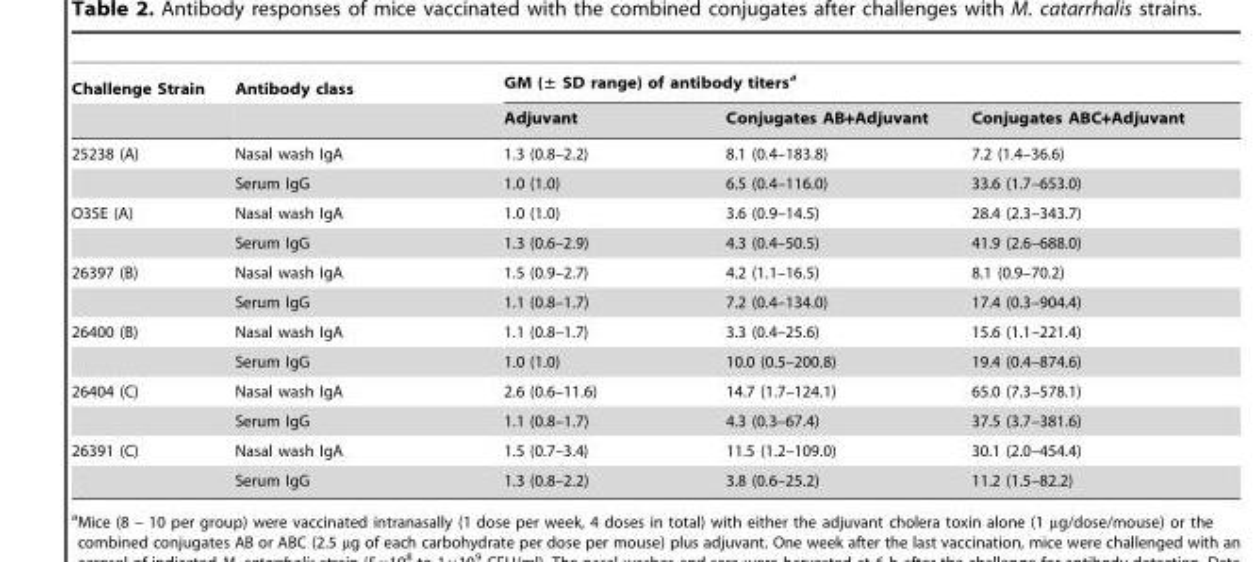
<table><thead><tr><td rowspan="2">Challenge Strain</td><td rowspan="2">Antibody class</td><td colspan="3">GM (± SD range) of antibody titers<sup>a</sup></td></tr><tr><td>Adjuvant</td><td>Conjugates AB+Adjuvant</td><td>Conjugates ABC+Adjuvant</td></tr></thead><tbody><tr><td rowspan="2">25238 (A)</td><td>Nasal wash IgA</td><td>1.3 (0.8–2.2)</td><td>8.1 (0.4–183.8)</td><td>7.2 (1.4–36.6)</td></tr><tr><td>Serum IgG</td><td>1.0 (1.0)</td><td>6.5 (0.4–116.0)</td><td>33.6 (1.7–653.0)</td></tr><tr><td rowspan="2">O35E (A)</td><td>Nasal wash IgA</td><td>1.0 (1.0)</td><td>3.6 (0.9–14.5)</td><td>28.4 (2.3–343.7)</td></tr><tr><td>Serum IgG</td><td>1.3 (0.6–2.9)</td><td>4.3 (0.4–50.5)</td><td>41.9 (2.6–688.0)</td></tr><tr><td rowspan="2">26397 (B)</td><td>Nasal wash IgA</td><td>1.5 (0.9–2.7)</td><td>4.2 (1.1–16.5)</td><td>8.1 (0.9–70.2)</td></tr><tr><td>Serum IgG</td><td>1.1 (0.8–1.7)</td><td>7.2 (0.4–134.0)</td><td>17.4 (0.3–904.4)</td></tr><tr><td rowspan="2">26400 (B)</td><td>Nasal wash IgA</td><td>1.1 (0.8–1.7)</td><td>3.3 (0.4–25.6)</td><td>15.6 (1.1–221.4)</td></tr><tr><td>Serum IgG</td><td>1.0 (1.0)</td><td>10.0 (0.5–200.8)</td><td>19.4 (0.4–874.6)</td></tr><tr><td rowspan="2">26404 (C)</td><td>Nasal wash IgA</td><td>2.6 (0.6–11.6)</td><td>14.7 (1.7–124.1)</td><td>65.0 (7.3–578.1)</td></tr><tr><td>Serum IgG</td><td>1.1 (0.8–1.7)</td><td>4.3 (0.3–67.4)</td><td>37.5 (3.7–381.6)</td></tr><tr><td rowspan="2">26391 (C)</td><td>Nasal wash IgA</td><td>1.5 (0.7–3.4)</td><td>11.5 (1.2–109.0)</td><td>30.1 (2.0–454.4)</td></tr><tr><td>Serum IgG</td><td>1.3 (0.8–2.2)</td><td>3.8 (0.6–25.2)</td><td>11.2 (1.5–82.2)</td></tr></tbody></table>